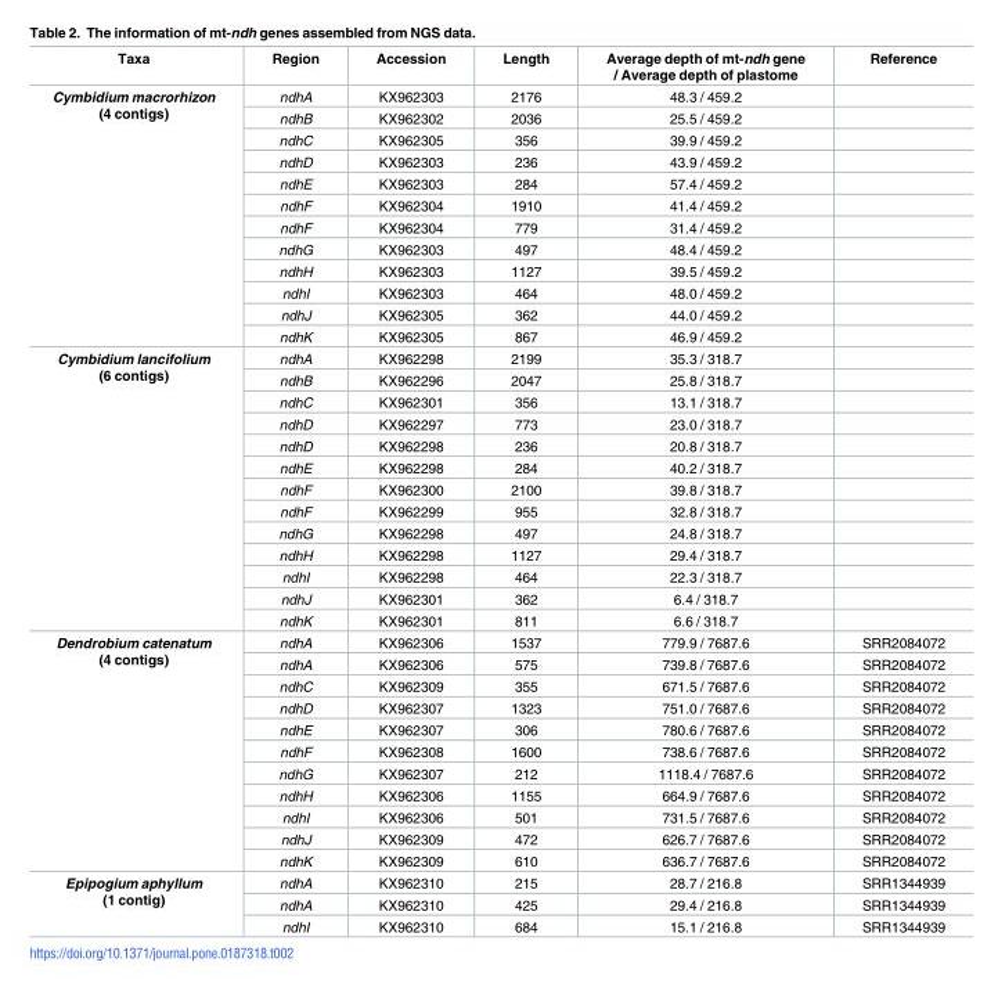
<table><thead><tr><td>Taxa</td><td>Region</td><td>Accession</td><td>Length</td><td>Average depth of mt-ndh gene / Average depth of plastome</td><td>Reference</td></tr></thead><tbody><tr><td rowspan="12">Cymbidium macrorhizon (4 contigs)</td><td>ndhA</td><td>KX962303</td><td>2176</td><td>48.3 / 459.2</td><td></td></tr><tr><td>ndhB</td><td>KX962302</td><td>2036</td><td>25.5 / 459.2</td><td></td></tr><tr><td>ndhC</td><td>KX962305</td><td>356</td><td>39.9 / 459.2</td><td></td></tr><tr><td>ndhD</td><td>KX962303</td><td>236</td><td>43.9 / 459.2</td><td></td></tr><tr><td>ndhE</td><td>KX962303</td><td>284</td><td>57.4 / 459.2</td><td></td></tr><tr><td>ndhF</td><td>KX962304</td><td>1910</td><td>41.4 / 459.2</td><td></td></tr><tr><td>ndhF</td><td>KX962304</td><td>779</td><td>31.4 / 459.2</td><td></td></tr><tr><td>ndhG</td><td>KX962303</td><td>497</td><td>48.4 / 459.2</td><td></td></tr><tr><td>ndhH</td><td>KX962303</td><td>1127</td><td>39.5 / 459.2</td><td></td></tr><tr><td>ndhI</td><td>KX962303</td><td>464</td><td>48.0 / 459.2</td><td></td></tr><tr><td>ndhJ</td><td>KX962305</td><td>362</td><td>44.0 / 459.2</td><td></td></tr><tr><td>ndhK</td><td>KX962305</td><td>867</td><td>46.9 / 459.2</td><td></td></tr><tr><td rowspan="13">Cymbidium lancifolium (6 contigs)</td><td>ndhA</td><td>KX962298</td><td>2199</td><td>35.3 / 318.7</td><td></td></tr><tr><td>ndhB</td><td>KX962296</td><td>2047</td><td>25.8 / 318.7</td><td></td></tr><tr><td>ndhC</td><td>KX962301</td><td>356</td><td>13.1 / 318.7</td><td></td></tr><tr><td>ndhD</td><td>KX962297</td><td>773</td><td>23.0 / 318.7</td><td></td></tr><tr><td>ndhD</td><td>KX962298</td><td>236</td><td>20.8 / 318.7</td><td></td></tr><tr><td>ndhE</td><td>KX962298</td><td>284</td><td>40.2 / 318.7</td><td></td></tr><tr><td>ndhF</td><td>KX962300</td><td>2100</td><td>39.8 / 318.7</td><td></td></tr><tr><td>ndhF</td><td>KX962299</td><td>955</td><td>32.8 / 318.7</td><td></td></tr><tr><td>ndhG</td><td>KX962298</td><td>497</td><td>24.8 / 318.7</td><td></td></tr><tr><td>ndhH</td><td>KX962298</td><td>1127</td><td>29.4 / 318.7</td><td></td></tr><tr><td>ndhI</td><td>KX962298</td><td>464</td><td>22.3 / 318.7</td><td></td></tr><tr><td>ndhJ</td><td>KX962301</td><td>362</td><td>6.4 / 318.7</td><td></td></tr><tr><td>ndhK</td><td>KX962301</td><td>811</td><td>6.6 / 318.7</td><td></td></tr><tr><td rowspan="11">Dendrobium catenatum (4 contigs)</td><td>ndhA</td><td>KX962306</td><td>1537</td><td>779.9 / 7687.6</td><td>SRR2084072</td></tr><tr><td>ndhA</td><td>KX962306</td><td>575</td><td>739.8 / 7687.6</td><td>SRR2084072</td></tr><tr><td>ndhC</td><td>KX962309</td><td>355</td><td>671.5 / 7687.6</td><td>SRR2084072</td></tr><tr><td>ndhD</td><td>KX962307</td><td>1323</td><td>751.0 / 7687.6</td><td>SRR2084072</td></tr><tr><td>ndhE</td><td>KX962307</td><td>306</td><td>780.6 / 7687.6</td><td>SRR2084072</td></tr><tr><td>ndhF</td><td>KX962308</td><td>1600</td><td>738.6 / 7687.6</td><td>SRR2084072</td></tr><tr><td>ndhG</td><td>KX962307</td><td>212</td><td>1118.4 / 7687.6</td><td>SRR2084072</td></tr><tr><td>ndhH</td><td>KX962306</td><td>1155</td><td>664.9 / 7687.6</td><td>SRR2084072</td></tr><tr><td>ndhI</td><td>KX962306</td><td>501</td><td>731.5 / 7687.6</td><td>SRR2084072</td></tr><tr><td>ndhJ</td><td>KX962309</td><td>472</td><td>626.7 / 7687.6</td><td>SRR2084072</td></tr><tr><td>ndhK</td><td>KX962309</td><td>610</td><td>636.7 / 7687.6</td><td>SRR2084072</td></tr><tr><td rowspan="3">Epipogium aphyllum (1 contig)</td><td>ndhA</td><td>KX962310</td><td>215</td><td>28.7 / 216.8</td><td>SRR1344939</td></tr><tr><td>ndhA</td><td>KX962310</td><td>425</td><td>29.4 / 216.8</td><td>SRR1344939</td></tr><tr><td>ndhI</td><td>KX962310</td><td>684</td><td>15.1 / 216.8</td><td>SRR1344939</td></tr></tbody></table>